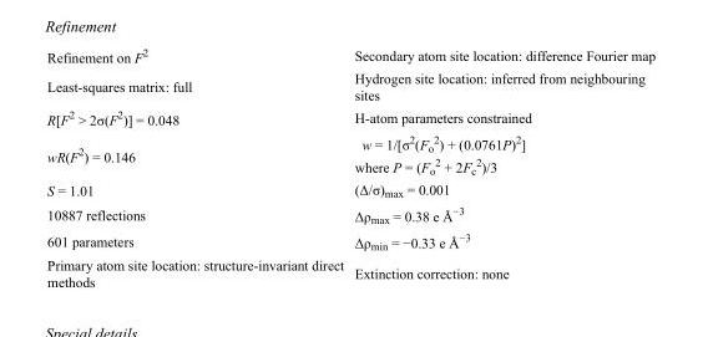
<table><tbody><tr><td>Refinement on F<sup>2</sup></td><td>Secondary atom site location: difference Fourier map</td></tr><tr><td>Least-squares matrix: full</td><td>Hydrogen site location: inferred from neighbouring sites</td></tr><tr><td>R[F<sup>2</sup> &gt; 2σ(F<sup>2</sup>)] = 0.048</td><td>H-atom parameters constrained</td></tr><tr><td>wR(F<sup>2</sup>) = 0.146</td><td>w = 1/[σ<sup>2</sup>(F<sub>o</sub> <sup>2</sup>) + (0.0761P)<sup>2</sup>] where P = (F<sub>o</sub> <sup>2</sup> + 2F<sub>c</sub> <sup>2</sup>)/3</td></tr><tr><td>S = 1.01</td><td>(Δ/σ)<sub>max</sub> = 0.001</td></tr><tr><td>10887 reflections</td><td>Δρ<sub>max</sub> = 0.38 e Å<sup>−3</sup></td></tr><tr><td>601 parameters</td><td>Δρ<sub>min</sub> = −0.33 e Å<sup>−3</sup></td></tr><tr><td>Primary atom site location: structure-invariant direct methods</td><td>Extinction correction: none</td></tr></tbody></table>